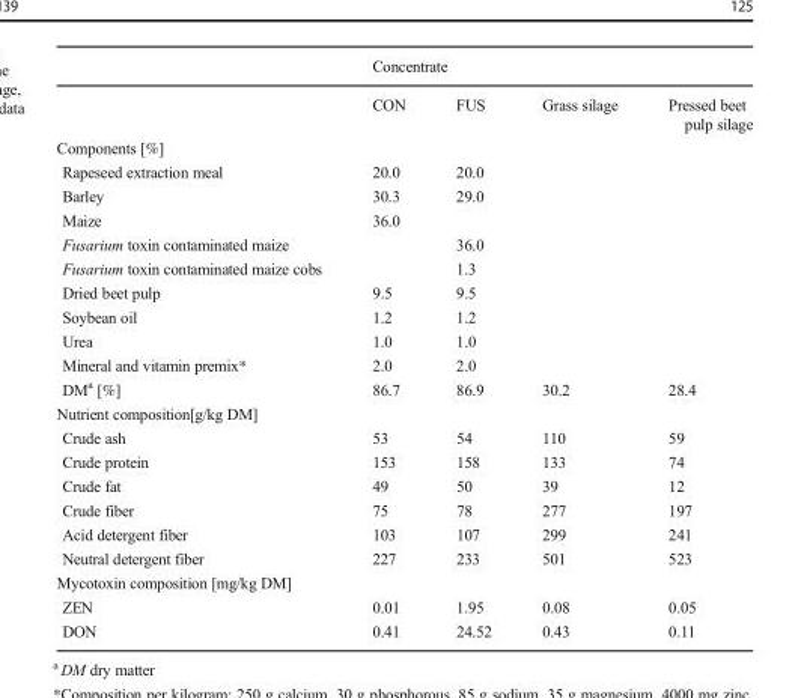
<table><thead><tr><td rowspan="2"></td><td colspan="2">Concentrate</td><td rowspan="2">Grass silage</td><td rowspan="2">Pressed beet pulp silage</td></tr><tr><td>CON</td><td>FUS</td></tr></thead><tbody><tr><td colspan="5">Components [%]</td></tr><tr><td>Rapeseed extraction meal</td><td>20.0</td><td>20.0</td><td></td><td></td></tr><tr><td>Barley</td><td>30.3</td><td>29.0</td><td></td><td></td></tr><tr><td>Maize</td><td>36.0</td><td></td><td></td><td></td></tr><tr><td>Fusarium toxin contaminated maize</td><td></td><td>36.0</td><td></td><td></td></tr><tr><td>Fusarium toxin contaminated maize cobs</td><td></td><td>1.3</td><td></td><td></td></tr><tr><td>Dried beet pulp</td><td>9.5</td><td>9.5</td><td></td><td></td></tr><tr><td>Soybean oil</td><td>1.2</td><td>1.2</td><td></td><td></td></tr><tr><td>Urea</td><td>1.0</td><td>1.0</td><td></td><td></td></tr><tr><td>Mineral and vitamin premix*</td><td>2.0</td><td>2.0</td><td></td><td></td></tr><tr><td>DM<sup>a</sup> [%]</td><td>86.7</td><td>86.9</td><td>30.2</td><td>28.4</td></tr><tr><td colspan="5">Nutrient composition[g/kg DM]</td></tr><tr><td>Crude ash</td><td>53</td><td>54</td><td>110</td><td>59</td></tr><tr><td>Crude protein</td><td>153</td><td>158</td><td>133</td><td>74</td></tr><tr><td>Crude fat</td><td>49</td><td>50</td><td>39</td><td>12</td></tr><tr><td>Crude fiber</td><td>75</td><td>78</td><td>277</td><td>197</td></tr><tr><td>Acid detergent fiber</td><td>103</td><td>107</td><td>299</td><td>241</td></tr><tr><td>Neutral detergent fiber</td><td>227</td><td>233</td><td>501</td><td>523</td></tr><tr><td colspan="5">Mycotoxin composition [mg/kg DM]</td></tr><tr><td>ZEN</td><td>0.01</td><td>1.95</td><td>0.08</td><td>0.05</td></tr><tr><td>DON</td><td>0.41</td><td>24.52</td><td>0.43</td><td>0.11</td></tr></tbody></table>